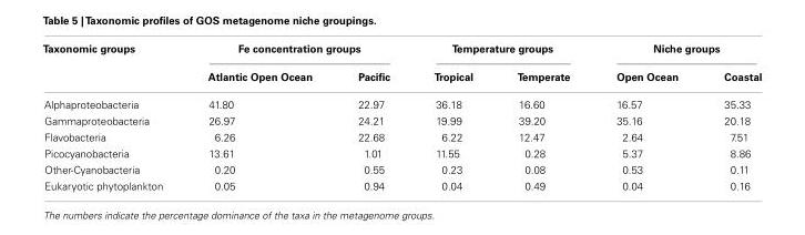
<table><thead><tr><td rowspan="2">Taxonomic groups</td><td colspan="2">Fe concentration groups</td><td colspan="2">Temperature groups</td><td colspan="2">Niche groups</td></tr><tr><td>Atlantic Open Ocean</td><td>Pacific</td><td>Tropical</td><td>Temperate</td><td>Open Ocean</td><td>Coastal</td></tr></thead><tbody><tr><td>Alphaproteobacteria</td><td>41.80</td><td>22.97</td><td>36.18</td><td>16.60</td><td>16.57</td><td>35.33</td></tr><tr><td>Gammaproteobacteria</td><td>26.97</td><td>24.21</td><td>19.99</td><td>39.20</td><td>35.16</td><td>20.18</td></tr><tr><td>Flavobacteria</td><td>6.26</td><td>22.68</td><td>6.22</td><td>12.47</td><td>2.64</td><td>7.51</td></tr><tr><td>Picocyanobacteria</td><td>13.61</td><td>1.01</td><td>11.55</td><td>0.28</td><td>5.37</td><td>8.86</td></tr><tr><td>Other-Cyanobacteria</td><td>0.20</td><td>0.55</td><td>0.23</td><td>0.08</td><td>0.53</td><td>0.11</td></tr><tr><td>Eukaryotic phytoplankton</td><td>0.05</td><td>0.94</td><td>0.04</td><td>0.49</td><td>0.04</td><td>0.16</td></tr></tbody></table>